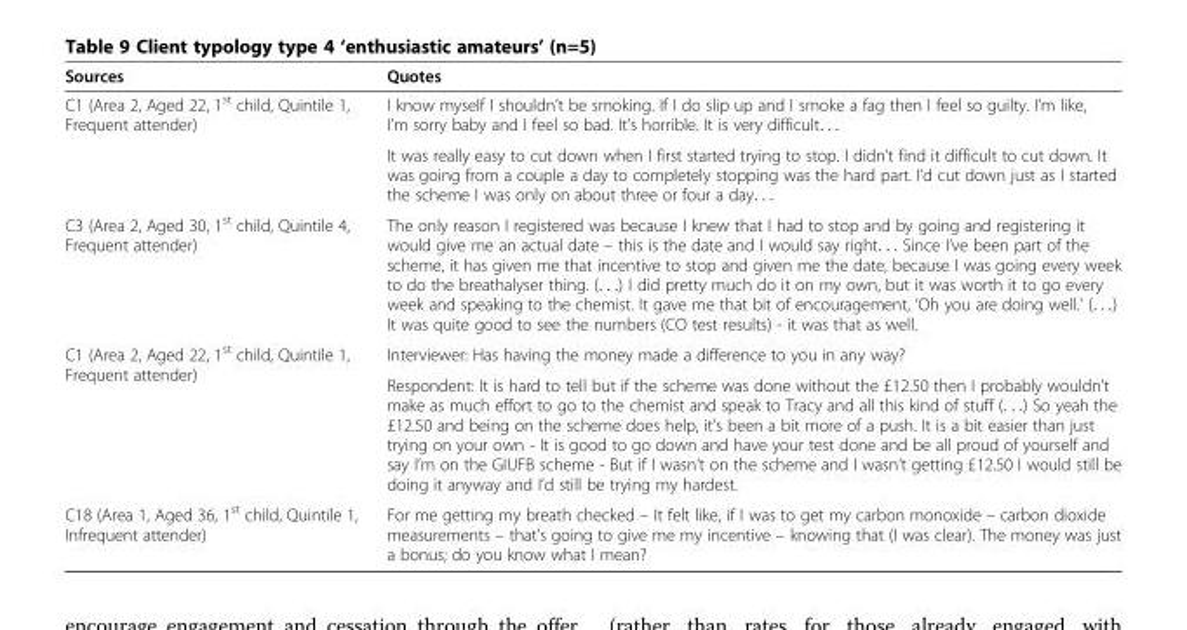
<table><thead><tr><td>Sources</td><td>Quotes</td></tr></thead><tbody><tr><td rowspan="2">C1 (Area 2, Aged 22, 1<sup>st</sup> child, Quintile 1, Frequent attender)</td><td>I know myself I shouldn’t be smoking. If I do slip up and I smoke a fag then I feel so guilty. I’m like, I’m sorry baby and I feel so bad. It’s horrible. It is very difficult. . .</td></tr><tr><td>It was really easy to cut down when I first started trying to stop. I didn’t find it difficult to cut down. It was going from a couple a day to completely stopping was the hard part. I’d cut down just as I started the scheme I was only on about three or four a day. . .</td></tr><tr><td>C3 (Area 2, Aged 30, 1<sup>st</sup> child, Quintile 4, Frequent attender)</td><td>The only reason I registered was because I knew that I had to stop and by going and registering it would give me an actual date – this is the date and I would say right. . . Since I’ve been part of the scheme, it has given me that incentive to stop and given me the date, because I was going every week to do the breathalyser thing. (. . .) I did pretty much do it on my own, but it was worth it to go every week and speaking to the chemist. It gave me that bit of encouragement, ‘Oh you are doing well.’ (. . .) It was quite good to see the numbers (CO test results) - it was that as well.</td></tr><tr><td rowspan="2">C1 (Area 2, Aged 22, 1<sup>st</sup> child, Quintile 1, Frequent attender)</td><td>Interviewer: Has having the money made a difference to you in any way?</td></tr><tr><td>Respondent: It is hard to tell but if the scheme was done without the £12.50 then I probably wouldn’t make as much effort to go to the chemist and speak to Tracy and all this kind of stuff (. . .) So yeah the £12.50 and being on the scheme does help, it’s been a bit more of a push. It is a bit easier than just trying on your own - It is good to go down and have your test done and be all proud of yourself and say I’m on the GIUFB scheme - But if I wasn’t on the scheme and I wasn’t getting £12.50 I would still be doing it anyway and I’d still be trying my hardest.</td></tr><tr><td>C18 (Area 1, Aged 36, 1<sup>st</sup> child, Quintile 1, Infrequent attender)</td><td>For me getting my breath checked – It felt like, if I was to get my carbon monoxide – carbon dioxide measurements – that’s going to give me my incentive – knowing that (I was clear). The money was just a bonus; do you know what I mean?</td></tr></tbody></table>